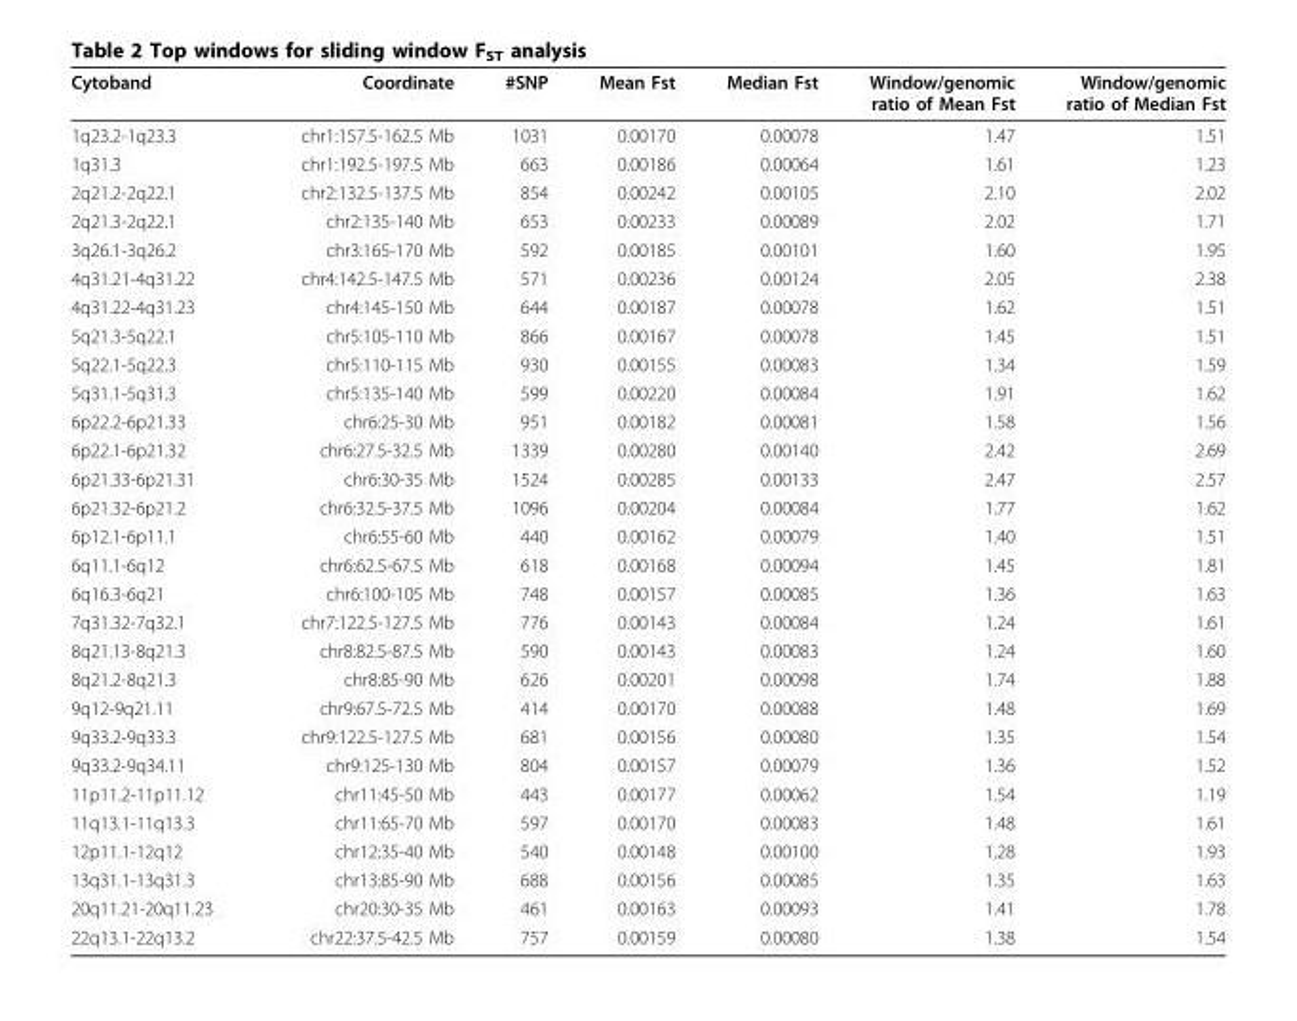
<table><thead><tr><td>Cytoband</td><td>Coordinate</td><td>#SNP</td><td>Mean Fst</td><td>Median Fst</td><td>Window/genomic ratio of Mean Fst</td><td>Window/genomic ratio of Median Fst</td></tr></thead><tbody><tr><td>1q23.2-1q23.3</td><td>chr1:157.5-162.5 Mb</td><td>1031</td><td>0.00170</td><td>0.00078</td><td>1.47</td><td>1.51</td></tr><tr><td>1q31.3</td><td>chr1:192.5-197.5 Mb</td><td>663</td><td>0.00186</td><td>0.00064</td><td>1.61</td><td>1.23</td></tr><tr><td>2q21.2-2q22.1</td><td>chr2:132.5-137.5 Mb</td><td>854</td><td>0.00242</td><td>0.00105</td><td>2.10</td><td>2.02</td></tr><tr><td>2q21.3-2q22.1</td><td>chr2:135-140 Mb</td><td>653</td><td>0.00233</td><td>0.00089</td><td>2.02</td><td>1.71</td></tr><tr><td>3q26.1-3q26.2</td><td>chr3:165-170 Mb</td><td>592</td><td>0.00185</td><td>0.00101</td><td>1.60</td><td>1.95</td></tr><tr><td>4q31.21-4q31.22</td><td>chr4:142.5-147.5 Mb</td><td>571</td><td>0.00236</td><td>0.00124</td><td>2.05</td><td>2.38</td></tr><tr><td>4q31.22-4q31.23</td><td>chr4:145-150 Mb</td><td>644</td><td>0.00187</td><td>0.00078</td><td>1.62</td><td>1.51</td></tr><tr><td>5q21.3-5q22.1</td><td>chr5:105-110 Mb</td><td>866</td><td>0.00167</td><td>0.00078</td><td>1.45</td><td>1.51</td></tr><tr><td>5q22.1-5q22.3</td><td>chr5:110-115 Mb</td><td>930</td><td>0.00155</td><td>0.00083</td><td>1.34</td><td>1.59</td></tr><tr><td>5q31.1-5q31.3</td><td>chr5:135-140 Mb</td><td>599</td><td>0.00220</td><td>0.00084</td><td>1.91</td><td>1.62</td></tr><tr><td>6p22.2-6p21.33</td><td>chr6:25-30 Mb</td><td>951</td><td>0.00182</td><td>0.00081</td><td>1.58</td><td>1.56</td></tr><tr><td>6p22.1-6p21.32</td><td>chr6:27.5-32.5 Mb</td><td>1339</td><td>0.00280</td><td>0.00140</td><td>2.42</td><td>2.69</td></tr><tr><td>6p21.33-6p21.31</td><td>chr6:30-35 Mb</td><td>1524</td><td>0.00285</td><td>0.00133</td><td>2.47</td><td>2.57</td></tr><tr><td>6p21.32-6p21.2</td><td>chr6:32.5-37.5 Mb</td><td>1096</td><td>0.00204</td><td>0.00084</td><td>1.77</td><td>1.62</td></tr><tr><td>6p12.1-6p11.1</td><td>chr6:55-60 Mb</td><td>440</td><td>0.00162</td><td>0.00079</td><td>1.40</td><td>1.51</td></tr><tr><td>6q11.1-6q12</td><td>chr6:62.5-67.5 Mb</td><td>618</td><td>0.00168</td><td>0.00094</td><td>1.45</td><td>1.81</td></tr><tr><td>6q16.3-6q21</td><td>chr6:100-105 Mb</td><td>748</td><td>0.00157</td><td>0.00085</td><td>1.36</td><td>1.63</td></tr><tr><td>7q31.32-7q32.1</td><td>chr7:122.5-127.5 Mb</td><td>776</td><td>0.00143</td><td>0.00084</td><td>1.24</td><td>1.61</td></tr><tr><td>8q21.13-8q21.3</td><td>chr8:82.5-87.5 Mb</td><td>590</td><td>0.00143</td><td>0.00083</td><td>1.24</td><td>1.60</td></tr><tr><td>8q21.2-8q21.3</td><td>chr8:85-90 Mb</td><td>626</td><td>0.00201</td><td>0.00098</td><td>1.74</td><td>1.88</td></tr><tr><td>9q12-9q21.11</td><td>chr9:67.5-72.5 Mb</td><td>414</td><td>0.00170</td><td>0.00088</td><td>1.48</td><td>1.69</td></tr><tr><td>9q33.2-9q33.3</td><td>chr9:122.5-127.5 Mb</td><td>681</td><td>0.00156</td><td>0.00080</td><td>1.35</td><td>1.54</td></tr><tr><td>9q33.2-9q34.11</td><td>chr9:125-130 Mb</td><td>804</td><td>0.00157</td><td>0.00079</td><td>1.36</td><td>1.52</td></tr><tr><td>11p11.2-11p11.12</td><td>chr11:45-50 Mb</td><td>443</td><td>0.00177</td><td>0.00062</td><td>1.54</td><td>1.19</td></tr><tr><td>11q13.1-11q13.3</td><td>chr11:65-70 Mb</td><td>597</td><td>0.00170</td><td>0.00083</td><td>1.48</td><td>1.61</td></tr><tr><td>12p11.1-12q12</td><td>chr12:35-40 Mb</td><td>540</td><td>0.00148</td><td>0.00100</td><td>1.28</td><td>1.93</td></tr><tr><td>13q31.1-13q31.3</td><td>chr13:85-90 Mb</td><td>688</td><td>0.00156</td><td>0.00085</td><td>1.35</td><td>1.63</td></tr><tr><td>20q11.21-20q11.23</td><td>chr20:30-35 Mb</td><td>461</td><td>0.00163</td><td>0.00093</td><td>1.41</td><td>1.78</td></tr><tr><td>22q13.1-22q13.2</td><td>chr22:37.5-42.5 Mb</td><td>757</td><td>0.00159</td><td>0.00080</td><td>1.38</td><td>1.54</td></tr></tbody></table>